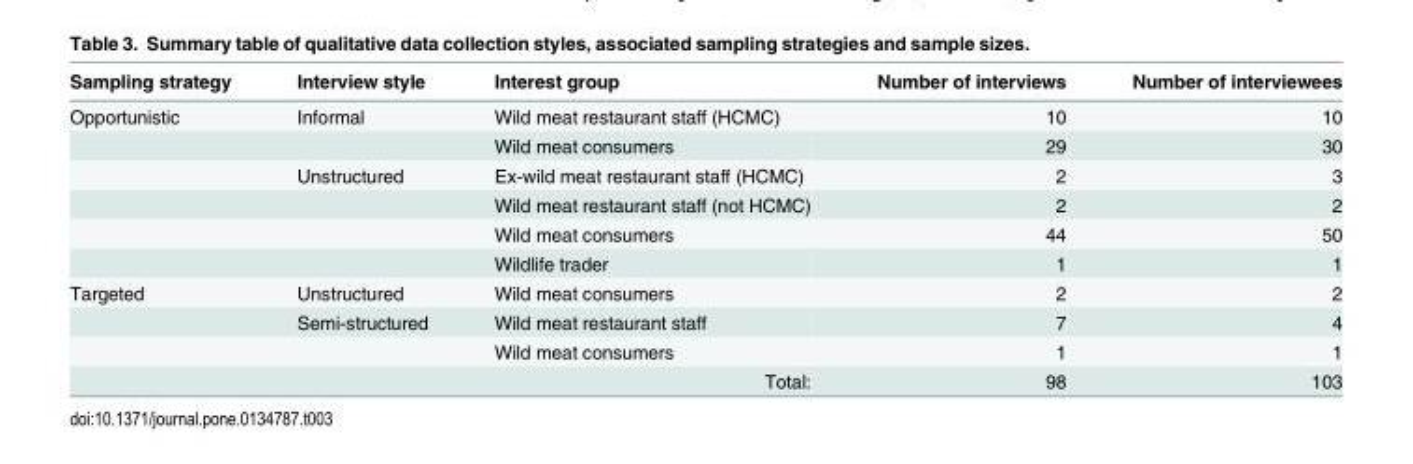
<table><thead><tr><td>Sampling strategy</td><td>Interview style</td><td>Interest group</td><td>Number of interviews</td><td>Number of interviewees</td></tr></thead><tbody><tr><td rowspan="6">Opportunistic</td><td>Informal</td><td>Wild meat restaurant staff (HCMC)</td><td>10</td><td>10</td></tr><tr><td></td><td>Wild meat consumers</td><td>29</td><td>30</td></tr><tr><td>Unstructured</td><td>Ex-wild meat restaurant staff (HCMC)</td><td>2</td><td>3</td></tr><tr><td></td><td>Wild meat restaurant staff (not HCMC)</td><td>2</td><td>2</td></tr><tr><td></td><td>Wild meat consumers</td><td>44</td><td>50</td></tr><tr><td></td><td>Wildlife trader</td><td>1</td><td>1</td></tr><tr><td rowspan="4">Targeted</td><td>Unstructured</td><td>Wild meat consumers</td><td>2</td><td>2</td></tr><tr><td>Semi-structured</td><td>Wild meat restaurant staff</td><td>7</td><td>4</td></tr><tr><td></td><td>Wild meat consumers</td><td>1</td><td>1</td></tr><tr><td></td><td>Total:</td><td>98</td><td>103</td></tr></tbody></table>